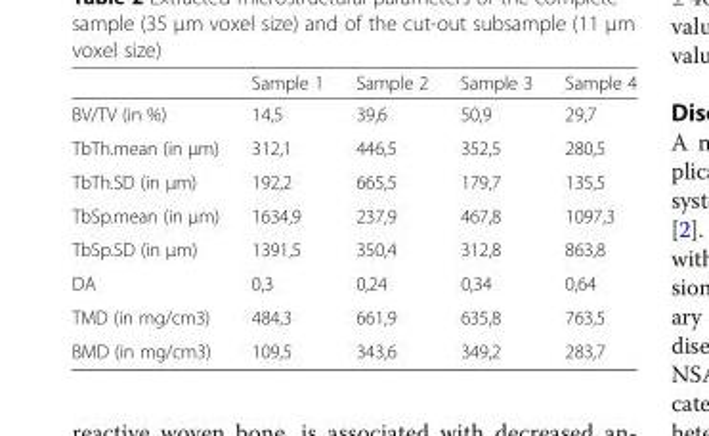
<table><thead><tr><td></td><td>Sample 1</td><td>Sample 2</td><td>Sample 3</td><td>Sample 4</td></tr></thead><tbody><tr><td>BV/TV (in %)</td><td>14,5</td><td>39,6</td><td>50,9</td><td>29,7</td></tr><tr><td>TbTh.mean (in μm)</td><td>312,1</td><td>446,5</td><td>352,5</td><td>280,5</td></tr><tr><td>TbTh.SD (in μm)</td><td>192,2</td><td>665,5</td><td>179,7</td><td>135,5</td></tr><tr><td>TbSp.mean (in μm)</td><td>1634,9</td><td>237,9</td><td>467,8</td><td>1097,3</td></tr><tr><td>TbSp.SD (in μm)</td><td>1391,5</td><td>350,4</td><td>312,8</td><td>863,8</td></tr><tr><td>DA</td><td>0,3</td><td>0,24</td><td>0,34</td><td>0,64</td></tr><tr><td>TMD (in mg/cm3)</td><td>484,3</td><td>661,9</td><td>635,8</td><td>763,5</td></tr><tr><td>BMD (in mg/cm3)</td><td>109,5</td><td>343,6</td><td>349,2</td><td>283,7</td></tr></tbody></table>